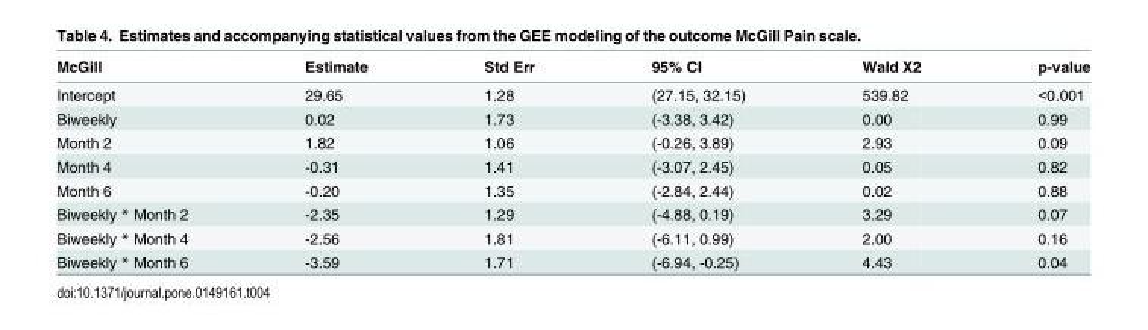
<table><thead><tr><td>McGill</td><td>Estimate</td><td>Std Err</td><td>95% CI</td><td>Wald X2</td><td>p-value</td></tr></thead><tbody><tr><td>Intercept</td><td>29.65</td><td>1.28</td><td>(27.15, 32.15)</td><td>539.82</td><td>&lt;0.001</td></tr><tr><td>Biweekly</td><td>0.02</td><td>1.73</td><td>(-3.38, 3.42)</td><td>0.00</td><td>0.99</td></tr><tr><td>Month 2</td><td>1.82</td><td>1.06</td><td>(-0.26, 3.89)</td><td>2.93</td><td>0.09</td></tr><tr><td>Month 4</td><td>-0.31</td><td>1.41</td><td>(-3.07, 2.45)</td><td>0.05</td><td>0.82</td></tr><tr><td>Month 6</td><td>-0.20</td><td>1.35</td><td>(-2.84, 2.44)</td><td>0.02</td><td>0.88</td></tr><tr><td>Biweekly * Month 2</td><td>-2.35</td><td>1.29</td><td>(-4.88, 0.19)</td><td>3.29</td><td>0.07</td></tr><tr><td>Biweekly * Month 4</td><td>-2.56</td><td>1.81</td><td>(-6.11, 0.99)</td><td>2.00</td><td>0.16</td></tr><tr><td>Biweekly * Month 6</td><td>-3.59</td><td>1.71</td><td>(-6.94, -0.25)</td><td>4.43</td><td>0.04</td></tr></tbody></table>